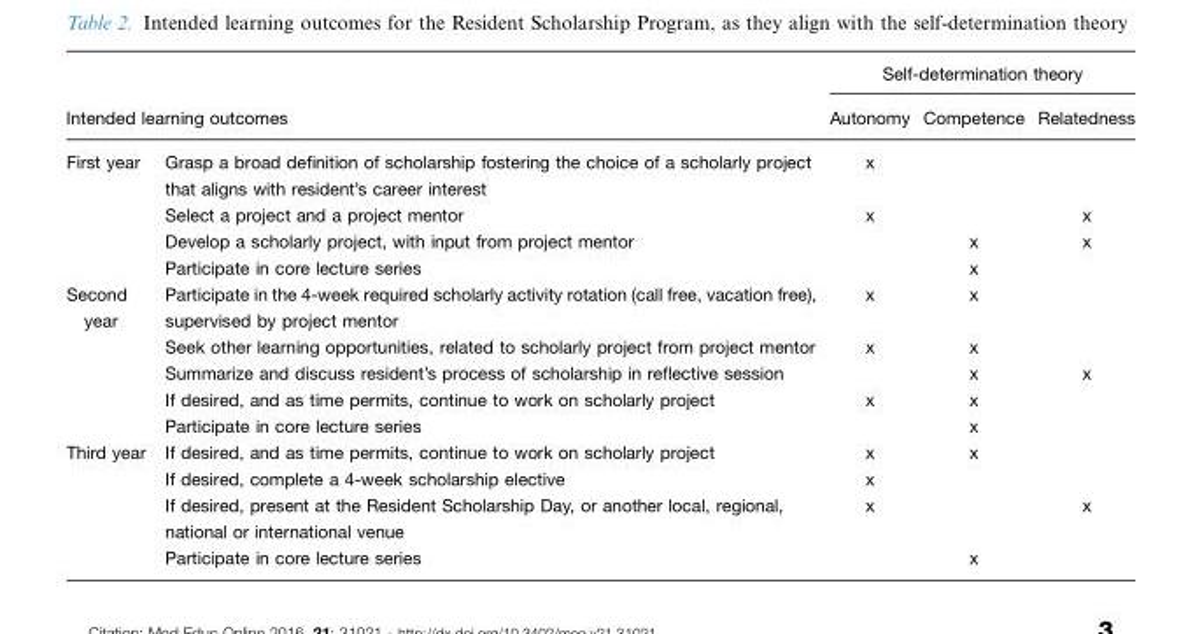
<table><thead><tr><td></td><td></td><td colspan="3">Self-determination theory</td></tr><tr><td colspan="2">Intended learning outcomes</td><td>Autonomy</td><td>Competence</td><td>Relatedness</td></tr></thead><tbody><tr><td rowspan="4">First year</td><td>Grasp a broad definition of scholarship fostering the choice of a scholarly project that aligns with resident’s career interest</td><td>x</td><td></td><td></td></tr><tr><td>Select a project and a project mentor</td><td>x</td><td></td><td>x</td></tr><tr><td>Develop a scholarly project, with input from project mentor</td><td></td><td>x</td><td>x</td></tr><tr><td>Participate in core lecture series</td><td></td><td>x</td><td></td></tr><tr><td rowspan="5">Second year</td><td>Participate in the 4-week required scholarly activity rotation (call free, vacation free), supervised by project mentor</td><td>x</td><td>x</td><td></td></tr><tr><td>Seek other learning opportunities, related to scholarly project from project mentor</td><td>x</td><td>x</td><td></td></tr><tr><td>Summarize and discuss resident’s process of scholarship in reflective session</td><td></td><td>x</td><td>x</td></tr><tr><td>If desired, and as time permits, continue to work on scholarly project</td><td>x</td><td>x</td><td></td></tr><tr><td>Participate in core lecture series</td><td></td><td>x</td><td></td></tr><tr><td rowspan="4">Third year</td><td>If desired, and as time permits, continue to work on scholarly project</td><td>x</td><td>x</td><td></td></tr><tr><td>If desired, complete a 4-week scholarship elective</td><td>x</td><td></td><td></td></tr><tr><td>If desired, present at the Resident Scholarship Day, or another local, regional, national or international venue</td><td>x</td><td></td><td>x</td></tr><tr><td>Participate in core lecture series</td><td></td><td>x</td><td></td></tr></tbody></table>